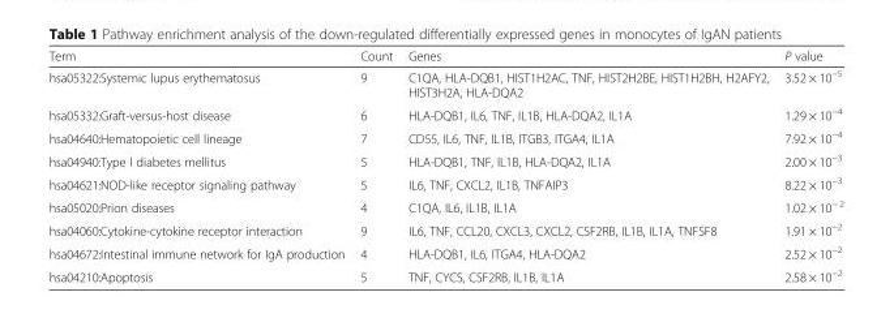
<table><thead><tr><td>Term</td><td>Count</td><td>Genes</td><td>P value</td></tr></thead><tbody><tr><td>hsa05322:Systemic lupus erythematosus</td><td>9</td><td>C1QA, HLA-DQB1, HIST1H2AC, TNF, HIST2H2BE, HIST1H2BH, H2AFY2, HIST3H2A, HLA-DQA2</td><td>3.52 × 10<sup>−5</sup></td></tr><tr><td>hsa05332:Graft-versus-host disease</td><td>6</td><td>HLA-DQB1, IL6, TNF, IL1B, HLA-DQA2, IL1A</td><td>1.29 × 10<sup>−4</sup></td></tr><tr><td>hsa04640:Hematopoietic cell lineage</td><td>7</td><td>CD55, IL6, TNF, IL1B, ITGB3, ITGA4, IL1A</td><td>7.92 × 10<sup>−4</sup></td></tr><tr><td>hsa04940:Type I diabetes mellitus</td><td>5</td><td>HLA-DQB1, TNF, IL1B, HLA-DQA2, IL1A</td><td>2.00 × 10<sup>−3</sup></td></tr><tr><td>hsa04621:NOD-like receptor signaling pathway</td><td>5</td><td>IL6, TNF, CXCL2, IL1B, TNFAIP3</td><td>8.22 × 10<sup>−3</sup></td></tr><tr><td>hsa05020:Prion diseases</td><td>4</td><td>C1QA, IL6, IL1B, IL1A</td><td>1.02 × 10<sup>− 2</sup></td></tr><tr><td>hsa04060:Cytokine-cytokine receptor interaction</td><td>9</td><td>IL6, TNF, CCL20, CXCL3, CXCL2, CSF2RB, IL1B, IL1A, TNFSF8</td><td>1.91 × 10<sup>−2</sup></td></tr><tr><td>hsa04672:Intestinal immune network for IgA production</td><td>4</td><td>HLA-DQB1, IL6, ITGA4, HLA-DQA2</td><td>2.52 × 10<sup>−2</sup></td></tr><tr><td>hsa04210:Apoptosis</td><td>5</td><td>TNF, CYCS, CSF2RB, IL1B, IL1A</td><td>2.58 × 10<sup>−2</sup></td></tr></tbody></table>